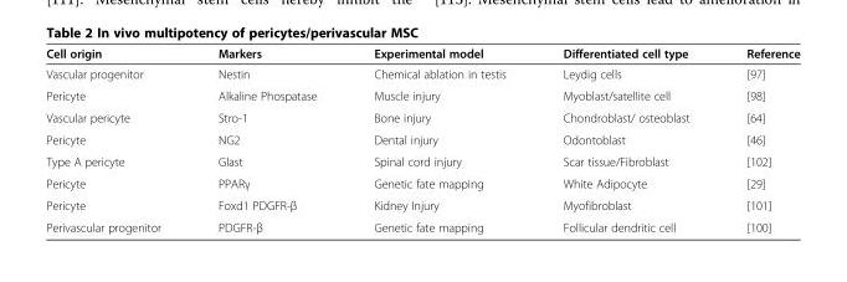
<table><thead><tr><td>Cell origin</td><td>Markers</td><td>Experimental model</td><td>Differentiated cell type</td><td>Reference</td></tr></thead><tbody><tr><td>Vascular progenitor</td><td>Nestin</td><td>Chemical ablation in testis</td><td>Leydig cells</td><td>[97]</td></tr><tr><td>Pericyte</td><td>Alkaline Phospatase</td><td>Muscle injury</td><td>Myoblast/satellite cell</td><td>[98]</td></tr><tr><td>Vascular pericyte</td><td>Stro-1</td><td>Bone injury</td><td>Chondroblast/ osteoblast</td><td>[64]</td></tr><tr><td>Pericyte</td><td>NG2</td><td>Dental injury</td><td>Odontoblast</td><td>[46]</td></tr><tr><td>Type A pericyte</td><td>Glast</td><td>Spinal cord injury</td><td>Scar tissue/Fibroblast</td><td>[102]</td></tr><tr><td>Pericyte</td><td>PPARγ</td><td>Genetic fate mapping</td><td>White Adipocyte</td><td>[29]</td></tr><tr><td>Pericyte</td><td>Foxd1 PDGFR-β</td><td>Kidney Injury</td><td>Myofibroblast</td><td>[101]</td></tr><tr><td>Perivascular progenitor</td><td>PDGFR-β</td><td>Genetic fate mapping</td><td>Follicular dendritic cell</td><td>[100]</td></tr></tbody></table>